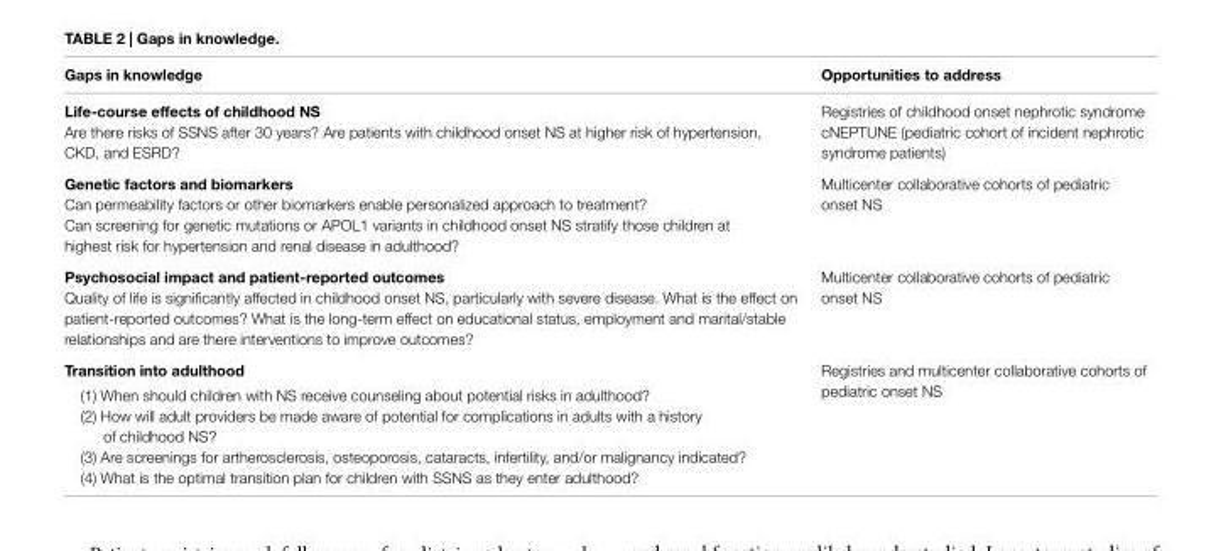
<table><thead><tr><td>Gaps in knowledge</td><td>Opportunities to address</td></tr></thead><tbody><tr><td>Life-course effects of childhood nS</td><td>Registries of childhood onset nephrotic syndrome</td></tr><tr><td>Are there risks of SSNS after 30 years? Are patients with childhood onset NS at higher risk of hypertension, CKD, and ESRD?</td><td>cNEPTUNE (pediatric cohort of incident nephrotic syndrome patients)</td></tr><tr><td>Genetic factors and biomarkers</td><td rowspan="3">Multicenter collaborative cohorts of pediatric onset NS</td></tr><tr><td>Can permeability factors or other biomarkers enable personalized approach to treatment?</td></tr><tr><td>Can screening for genetic mutations or APOL1 variants in childhood onset NS stratify those children at highest risk for hypertension and renal disease in adulthood?</td></tr><tr><td>Psychosocial impact and patient-reported outcomes</td><td rowspan="2">Multicenter collaborative cohorts of pediatric onset NS</td></tr><tr><td>Quality of life is significantly affected in childhood onset NS, particularly with severe disease. What is the effect on patient-reported outcomes? What is the long-term effect on educational status, employment and marital/stable relationships and are there interventions to improve outcomes?</td></tr><tr><td>Transition into adulthood</td><td rowspan="5">Registries and multicenter collaborative cohorts of pediatric onset NS</td></tr><tr><td>(1) When should children with NS receive counseling about potential risks in adulthood?</td></tr><tr><td>(2) How will adult providers be made aware of potential for complications in adults with a history of childhood NS?</td></tr><tr><td>(3) Are screenings for artherosclerosis, osteoporosis, cataracts, infertility, and/or malignancy indicated?</td></tr><tr><td>(4) What is the optimal transition plan for children with SSNS as they enter adulthood?</td></tr></tbody></table>